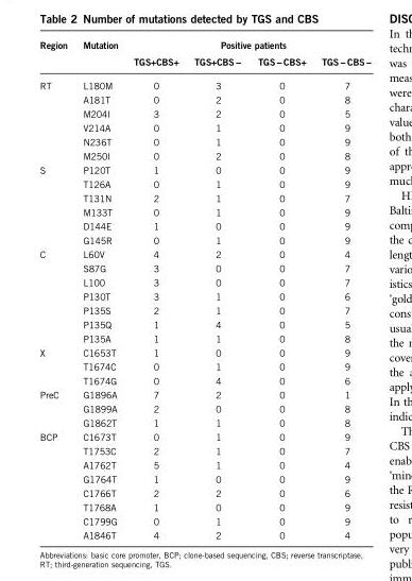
<table><thead><tr><td rowspan="2">Region</td><td rowspan="2">Mutation</td><td colspan="4">Positive patients</td></tr><tr><td>TGS+CBS+</td><td>TGS+CBS −</td><td>TGS− CBS+</td><td>TGS − CBS −</td></tr></thead><tbody><tr><td rowspan="6">RT</td><td>L180M</td><td>0</td><td>3</td><td>0</td><td>7</td></tr><tr><td>A181T</td><td>0</td><td>2</td><td>0</td><td>8</td></tr><tr><td>M204I</td><td>3</td><td>2</td><td>0</td><td>5</td></tr><tr><td>V214A</td><td>0</td><td>1</td><td>0</td><td>9</td></tr><tr><td>N236T</td><td>0</td><td>1</td><td>0</td><td>9</td></tr><tr><td>M250I</td><td>0</td><td>2</td><td>0</td><td>8</td></tr><tr><td rowspan="6">S</td><td>P120T</td><td>1</td><td>0</td><td>0</td><td>9</td></tr><tr><td>T126A</td><td>0</td><td>1</td><td>0</td><td>9</td></tr><tr><td>T131N</td><td>2</td><td>1</td><td>0</td><td>7</td></tr><tr><td>M133T</td><td>0</td><td>1</td><td>0</td><td>9</td></tr><tr><td>D144E</td><td>1</td><td>0</td><td>0</td><td>9</td></tr><tr><td>G145R</td><td>0</td><td>1</td><td>0</td><td>9</td></tr><tr><td rowspan="7">C</td><td>L60V</td><td>4</td><td>2</td><td>0</td><td>4</td></tr><tr><td>S87G</td><td>3</td><td>0</td><td>0</td><td>7</td></tr><tr><td>L100</td><td>3</td><td>0</td><td>0</td><td>7</td></tr><tr><td>P130T</td><td>3</td><td>1</td><td>0</td><td>6</td></tr><tr><td>P135S</td><td>2</td><td>1</td><td>0</td><td>7</td></tr><tr><td>P135Q</td><td>1</td><td>4</td><td>0</td><td>5</td></tr><tr><td>P135A</td><td>1</td><td>1</td><td>0</td><td>8</td></tr><tr><td rowspan="3">X</td><td>C1653T</td><td>1</td><td>0</td><td>0</td><td>9</td></tr><tr><td>T1674C</td><td>0</td><td>1</td><td>0</td><td>9</td></tr><tr><td>T1674G</td><td>0</td><td>4</td><td>0</td><td>6</td></tr><tr><td rowspan="3">PreC</td><td>G1896A</td><td>7</td><td>2</td><td>0</td><td>1</td></tr><tr><td>G1899A</td><td>2</td><td>0</td><td>0</td><td>8</td></tr><tr><td>G1862T</td><td>1</td><td>1</td><td>0</td><td>8</td></tr><tr><td rowspan="8">BCP</td><td>C1673T</td><td>0</td><td>1</td><td>0</td><td>9</td></tr><tr><td>T1753C</td><td>2</td><td>1</td><td>0</td><td>7</td></tr><tr><td>A1762T</td><td>5</td><td>1</td><td>0</td><td>4</td></tr><tr><td>G1764T</td><td>1</td><td>0</td><td>0</td><td>9</td></tr><tr><td>C1766T</td><td>2</td><td>2</td><td>0</td><td>6</td></tr><tr><td>T1768A</td><td>1</td><td>0</td><td>0</td><td>9</td></tr><tr><td>C1799G</td><td>0</td><td>1</td><td>0</td><td>9</td></tr><tr><td>A1846T</td><td>4</td><td>2</td><td>0</td><td>4</td></tr></tbody></table>